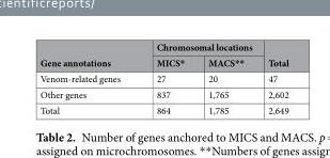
<table><thead><tr><td rowspan="2">Gene annotations</td><td colspan="2">Chromosomal locations</td><td rowspan="2">Total</td></tr><tr><td>MICS*</td><td>MACS**</td></tr></thead><tbody><tr><td>Venom-related genes</td><td>27</td><td>20</td><td>47</td></tr><tr><td>Other genes</td><td>837</td><td>1,765</td><td>2,602</td></tr><tr><td>Total</td><td>864</td><td>1,785</td><td>2,649</td></tr></tbody></table>